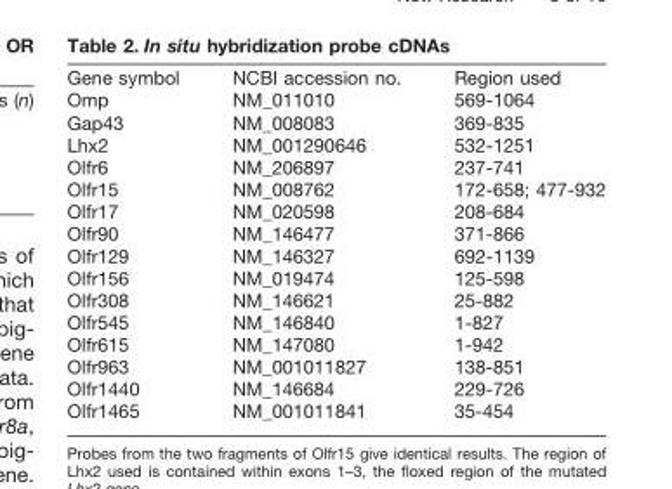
<table><thead><tr><td>Gene symbol</td><td>NCBI accession no.</td><td>Region used</td></tr></thead><tbody><tr><td>Omp</td><td>NM_011010</td><td>569-1064</td></tr><tr><td>Gap43</td><td>NM_008083</td><td>369-835</td></tr><tr><td>Lhx2</td><td>NM_001290646</td><td>532-1251</td></tr><tr><td>Olfr6</td><td>NM_206897</td><td>237-741</td></tr><tr><td>Olfr15</td><td>NM_008762</td><td>172-658; 477-932</td></tr><tr><td>Olfr17</td><td>NM_020598</td><td>208-684</td></tr><tr><td>Olfr90</td><td>NM_146477</td><td>371-866</td></tr><tr><td>Olfr129</td><td>NM_146327</td><td>692-1139</td></tr><tr><td>Olfr156</td><td>NM_019474</td><td>125-598</td></tr><tr><td>Olfr308</td><td>NM_146621</td><td>25-882</td></tr><tr><td>Olfr545</td><td>NM_146840</td><td>1-827</td></tr><tr><td>Olfr615</td><td>NM_147080</td><td>1-942</td></tr><tr><td>Olfr963</td><td>NM_001011827</td><td>138-851</td></tr><tr><td>Olfr1440</td><td>NM_146684</td><td>229-726</td></tr><tr><td>Olfr1465</td><td>NM_001011841</td><td>35-454</td></tr></tbody></table>